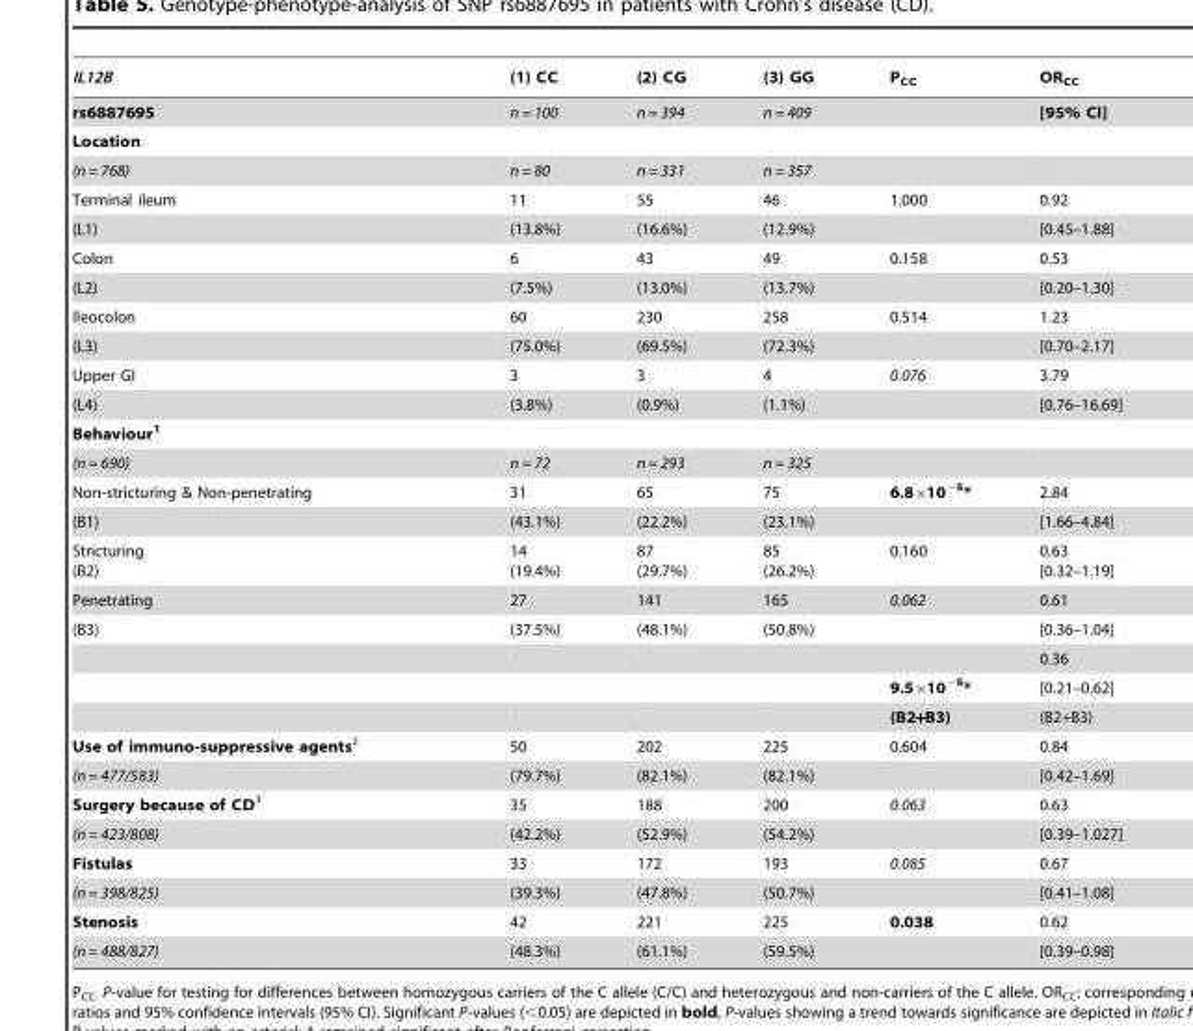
<table><thead><tr><td>IL12B</td><td>(1) CC</td><td>(2) CG</td><td>(3) GG</td><td>P<sub>CC</sub></td><td>OR<sub>CC</sub></td></tr></thead><tbody><tr><td>rs6887695</td><td>n = 100</td><td>n = 394</td><td>n = 409</td><td></td><td>[95% CI]</td></tr><tr><td colspan="6">Location</td></tr><tr><td>(n = 768)</td><td>n = 80</td><td>n = 331</td><td>n = 357</td><td></td><td></td></tr><tr><td>Terminal ileum</td><td>11</td><td>55</td><td>46</td><td>1.000</td><td>0.92</td></tr><tr><td>(L1)</td><td>(13.8%)</td><td>(16.6%)</td><td>(12.9%)</td><td></td><td>[0.45–1.88]</td></tr><tr><td>Colon</td><td>6</td><td>43</td><td>49</td><td>0.158</td><td>0.53</td></tr><tr><td>(L2)</td><td>(7.5%)</td><td>(13.0%)</td><td>(13.7%)</td><td></td><td>[0.20–1.30]</td></tr><tr><td>Ileocolon</td><td>60</td><td>230</td><td>258</td><td>0.514</td><td>1.23</td></tr><tr><td>(L3)</td><td>(75.0%)</td><td>(69.5%)</td><td>(72.3%)</td><td></td><td>[0.70–2.17]</td></tr><tr><td>Upper GI</td><td>3</td><td>3</td><td>4</td><td>0.076</td><td>3.79</td></tr><tr><td>(L4)</td><td>(3.8%)</td><td>(0.9%)</td><td>(1.1%)</td><td></td><td>[0.76–16.69]</td></tr><tr><td colspan="6">Behaviour1</td></tr><tr><td>(n = 690)</td><td>n = 72</td><td>n = 293</td><td>n = 325</td><td></td><td></td></tr><tr><td>Non-stricturing &amp; Non-penetrating</td><td>31</td><td>65</td><td>75</td><td>6.8×10<sup>−5</sup>*</td><td>2.84</td></tr><tr><td>(B1)</td><td>(43.1%)</td><td>(22.2%)</td><td>(23.1%)</td><td></td><td>[1.66–4.84]</td></tr><tr><td>Stricturing (B2)</td><td>14 (19.4%)</td><td>87 (29.7%)</td><td>85 (26.2%)</td><td>0.160</td><td>0.63 [0.32–1.19]</td></tr><tr><td>Penetrating</td><td>27</td><td>141</td><td>165</td><td>0.062</td><td>0.61</td></tr><tr><td rowspan="4">(B3)</td><td>(37.5%)</td><td>(48.1%)</td><td>(50.8%)</td><td></td><td>[0.36–1.04]</td></tr><tr><td></td><td></td><td></td><td></td><td>0.36</td></tr><tr><td></td><td></td><td></td><td>9.5×10<sup>−5</sup>*</td><td>[0.21–0.62]</td></tr><tr><td></td><td></td><td></td><td>(B2+B3)</td><td>(B2+B3)</td></tr><tr><td>Use of immuno-suppressive agents2</td><td>50</td><td>202</td><td>225</td><td>0.604</td><td>0.84</td></tr><tr><td>(n = 477/583)</td><td>(79.7%)</td><td>(82.1%)</td><td>(82.1%)</td><td></td><td>[0.42–1.69]</td></tr><tr><td>Surgery because of CD3</td><td>35</td><td>188</td><td>200</td><td>0.063</td><td>0.63</td></tr><tr><td>(n = 423/808)</td><td>(42.2%)</td><td>(52.9%)</td><td>(54.2%)</td><td></td><td>[0.39–1.027]</td></tr><tr><td>Fistulas</td><td>33</td><td>172</td><td>193</td><td>0.085</td><td>0.67</td></tr><tr><td>(n = 398/825)</td><td>(39.3%)</td><td>(47.8%)</td><td>(50.7%)</td><td></td><td>[0.41–1.08]</td></tr><tr><td>Stenosis</td><td>42</td><td>221</td><td>225</td><td>0.038</td><td>0.62</td></tr><tr><td>(n = 488/827)</td><td>(48.3%)</td><td>(61.1%)</td><td>(59.5%)</td><td></td><td>[0.39–0.98]</td></tr></tbody></table>